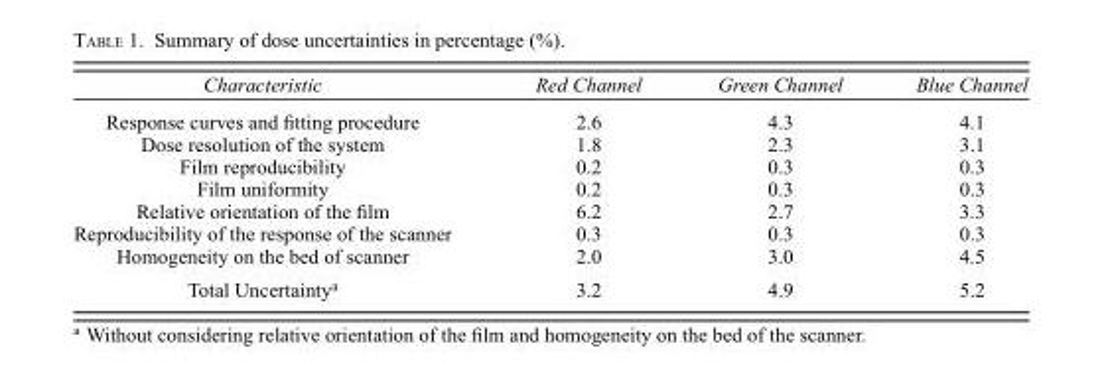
<table><thead><tr><td>Characteristic</td><td>Red Channel</td><td>Green Channel</td><td>Blue Channel</td></tr></thead><tbody><tr><td>Response curves and fitting procedure</td><td>2.6</td><td>4.3</td><td>4.1</td></tr><tr><td>Dose resolution of the system</td><td>1.8</td><td>2.3</td><td>3.1</td></tr><tr><td>Film reproducibility</td><td>0.2</td><td>0.3</td><td>0.3</td></tr><tr><td>Film uniformity</td><td>0.2</td><td>0.3</td><td>0.3</td></tr><tr><td>Relative orientation of the film</td><td>6.2</td><td>2.7</td><td>3.3</td></tr><tr><td>Reproducibility of the response of the scanner</td><td>0.3</td><td>0.3</td><td>0.3</td></tr><tr><td>Homogeneity on the bed of scanner</td><td>2.0</td><td>3.0</td><td>4.5</td></tr><tr><td>Total Uncertainty<sup>a</sup></td><td>3.2</td><td>4.9</td><td>5.2</td></tr></tbody></table>